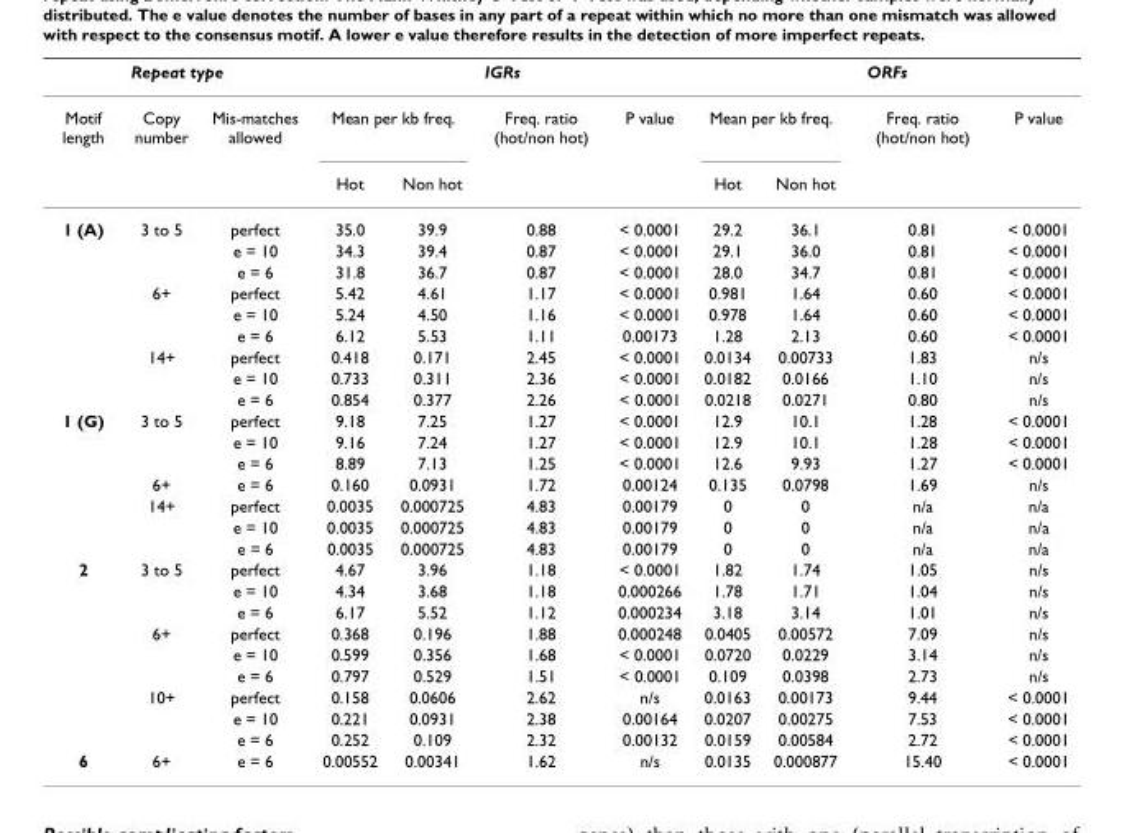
<table><thead><tr><td colspan="3">Repeat type</td><td colspan="4">IGRs</td><td colspan="4">ORFs</td></tr><tr><td rowspan="2">Motif length</td><td rowspan="2">Copy number</td><td rowspan="2">Mis-matches allowed</td><td colspan="2">Mean per kb freq.</td><td rowspan="2">Freq. ratio (hot/non hot)</td><td rowspan="2">P value</td><td colspan="2">Mean per kb freq.</td><td rowspan="2">Freq. ratio (hot/non hot)</td><td rowspan="2">P value</td></tr><tr><td>Hot</td><td>Non hot</td><td>Hot</td><td>Non hot</td></tr></thead><tbody><tr><td rowspan="9">1 (A)</td><td>3 to 5</td><td>perfect</td><td>35.0</td><td>39.9</td><td>0.88</td><td>&lt; 0.0001</td><td>29.2</td><td>36.1</td><td>0.81</td><td>&lt; 0.0001</td></tr><tr><td></td><td>e = 10</td><td>34.3</td><td>39.4</td><td>0.87</td><td>&lt; 0.0001</td><td>29.1</td><td>36.0</td><td>0.81</td><td>&lt; 0.0001</td></tr><tr><td></td><td>e = 6</td><td>31.8</td><td>36.7</td><td>0.87</td><td>&lt; 0.0001</td><td>28.0</td><td>34.7</td><td>0.81</td><td>&lt; 0.0001</td></tr><tr><td>6+</td><td>perfect</td><td>5.42</td><td>4.61</td><td>1.17</td><td>&lt; 0.0001</td><td>0.981</td><td>1.64</td><td>0.60</td><td>&lt; 0.0001</td></tr><tr><td></td><td>e = 10</td><td>5.24</td><td>4.50</td><td>1.16</td><td>&lt; 0.0001</td><td>0.978</td><td>1.64</td><td>0.60</td><td>&lt; 0.0001</td></tr><tr><td></td><td>e = 6</td><td>6.12</td><td>5.53</td><td>1.11</td><td>0.00173</td><td>1.28</td><td>2.13</td><td>0.60</td><td>&lt; 0.0001</td></tr><tr><td>14+</td><td>perfect</td><td>0.418</td><td>0.171</td><td>2.45</td><td>&lt; 0.0001</td><td>0.0134</td><td>0.00733</td><td>1.83</td><td>n/s</td></tr><tr><td></td><td>e = 10</td><td>0.733</td><td>0.311</td><td>2.36</td><td>&lt; 0.0001</td><td>0.0182</td><td>0.0166</td><td>1.10</td><td>n/s</td></tr><tr><td></td><td>e = 6</td><td>0.854</td><td>0.377</td><td>2.26</td><td>&lt; 0.0001</td><td>0.0218</td><td>0.0271</td><td>0.80</td><td>n/s</td></tr><tr><td rowspan="7">1 (G)</td><td>3 to 5</td><td>perfect</td><td>9.18</td><td>7.25</td><td>1.27</td><td>&lt; 0.0001</td><td>12.9</td><td>10.1</td><td>1.28</td><td>&lt; 0.0001</td></tr><tr><td></td><td>e = 10</td><td>9.16</td><td>7.24</td><td>1.27</td><td>&lt; 0.0001</td><td>12.9</td><td>10.1</td><td>1.28</td><td>&lt; 0.0001</td></tr><tr><td></td><td>e = 6</td><td>8.89</td><td>7.13</td><td>1.25</td><td>&lt; 0.0001</td><td>12.6</td><td>9.93</td><td>1.27</td><td>&lt; 0.0001</td></tr><tr><td>6+</td><td>e = 6</td><td>0.160</td><td>0.0931</td><td>1.72</td><td>0.00124</td><td>0.135</td><td>0.0798</td><td>1.69</td><td>n/s</td></tr><tr><td>14+</td><td>perfect</td><td>0.0035</td><td>0.000725</td><td>4.83</td><td>0.00179</td><td>0</td><td>0</td><td>n/a</td><td>n/a</td></tr><tr><td></td><td>e = 10</td><td>0.0035</td><td>0.000725</td><td>4.83</td><td>0.00179</td><td>0</td><td>0</td><td>n/a</td><td>n/a</td></tr><tr><td></td><td>e = 6</td><td>0.0035</td><td>0.000725</td><td>4.83</td><td>0.00179</td><td>0</td><td>0</td><td>n/a</td><td>n/a</td></tr><tr><td rowspan="9">2</td><td>3 to 5</td><td>perfect</td><td>4.67</td><td>3.96</td><td>1.18</td><td>&lt; 0.0001</td><td>1.82</td><td>1.74</td><td>1.05</td><td>n/s</td></tr><tr><td></td><td>e = 10</td><td>4.34</td><td>3.68</td><td>1.18</td><td>0.000266</td><td>1.78</td><td>1.71</td><td>1.04</td><td>n/s</td></tr><tr><td></td><td>e = 6</td><td>6.17</td><td>5.52</td><td>1.12</td><td>0.000234</td><td>3.18</td><td>3.14</td><td>1.01</td><td>n/s</td></tr><tr><td>6+</td><td>perfect</td><td>0.368</td><td>0.196</td><td>1.88</td><td>0.000248</td><td>0.0405</td><td>0.00572</td><td>7.09</td><td>n/s</td></tr><tr><td></td><td>e = 10</td><td>0.599</td><td>0.356</td><td>1.68</td><td>&lt; 0.0001</td><td>0.0720</td><td>0.0229</td><td>3.14</td><td>n/s</td></tr><tr><td></td><td>e = 6</td><td>0.797</td><td>0.529</td><td>1.51</td><td>&lt; 0.0001</td><td>0.109</td><td>0.0398</td><td>2.73</td><td>n/s</td></tr><tr><td>10+</td><td>perfect</td><td>0.158</td><td>0.0606</td><td>2.62</td><td>n/s</td><td>0.0163</td><td>0.00173</td><td>9.44</td><td>&lt; 0.0001</td></tr><tr><td></td><td>e = 10</td><td>0.221</td><td>0.0931</td><td>2.38</td><td>0.00164</td><td>0.0207</td><td>0.00275</td><td>7.53</td><td>&lt; 0.0001</td></tr><tr><td></td><td>e = 6</td><td>0.252</td><td>0.109</td><td>2.32</td><td>0.00132</td><td>0.0159</td><td>0.00584</td><td>2.72</td><td>&lt; 0.0001</td></tr><tr><td>6</td><td>6+</td><td>e = 6</td><td>0.00552</td><td>0.00341</td><td>1.62</td><td>n/s</td><td>0.0135</td><td>0.000877</td><td>15.40</td><td>&lt; 0.0001</td></tr></tbody></table>